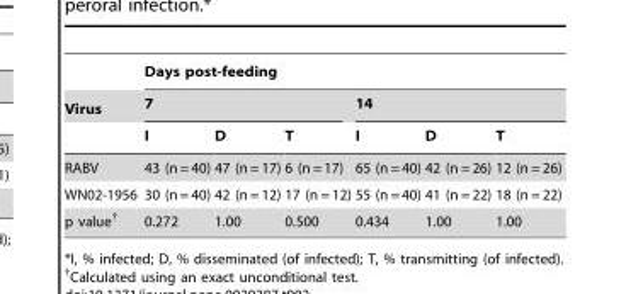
<table><thead><tr><td rowspan="3">Virus</td><td colspan="6">Days post-feeding</td></tr><tr><td colspan="3">7</td><td colspan="3">14</td></tr><tr><td>I</td><td>D</td><td>T</td><td>I</td><td>D</td><td>T</td></tr></thead><tbody><tr><td>RABV</td><td>43 (n = 40)</td><td>47 (n = 17)</td><td>6 (n = 17)</td><td>65 (n = 40)</td><td>42 (n = 26)</td><td>12 (n = 26)</td></tr><tr><td>WN02-1956</td><td>30 (n = 40)</td><td>42 (n = 12)</td><td>17 (n = 12)</td><td>55 (n = 40)</td><td>41 (n = 22)</td><td>18 (n = 22)</td></tr><tr><td>p value†</td><td>0.272</td><td>1.00</td><td>0.500</td><td>0.434</td><td>1.00</td><td>1.00</td></tr></tbody></table>